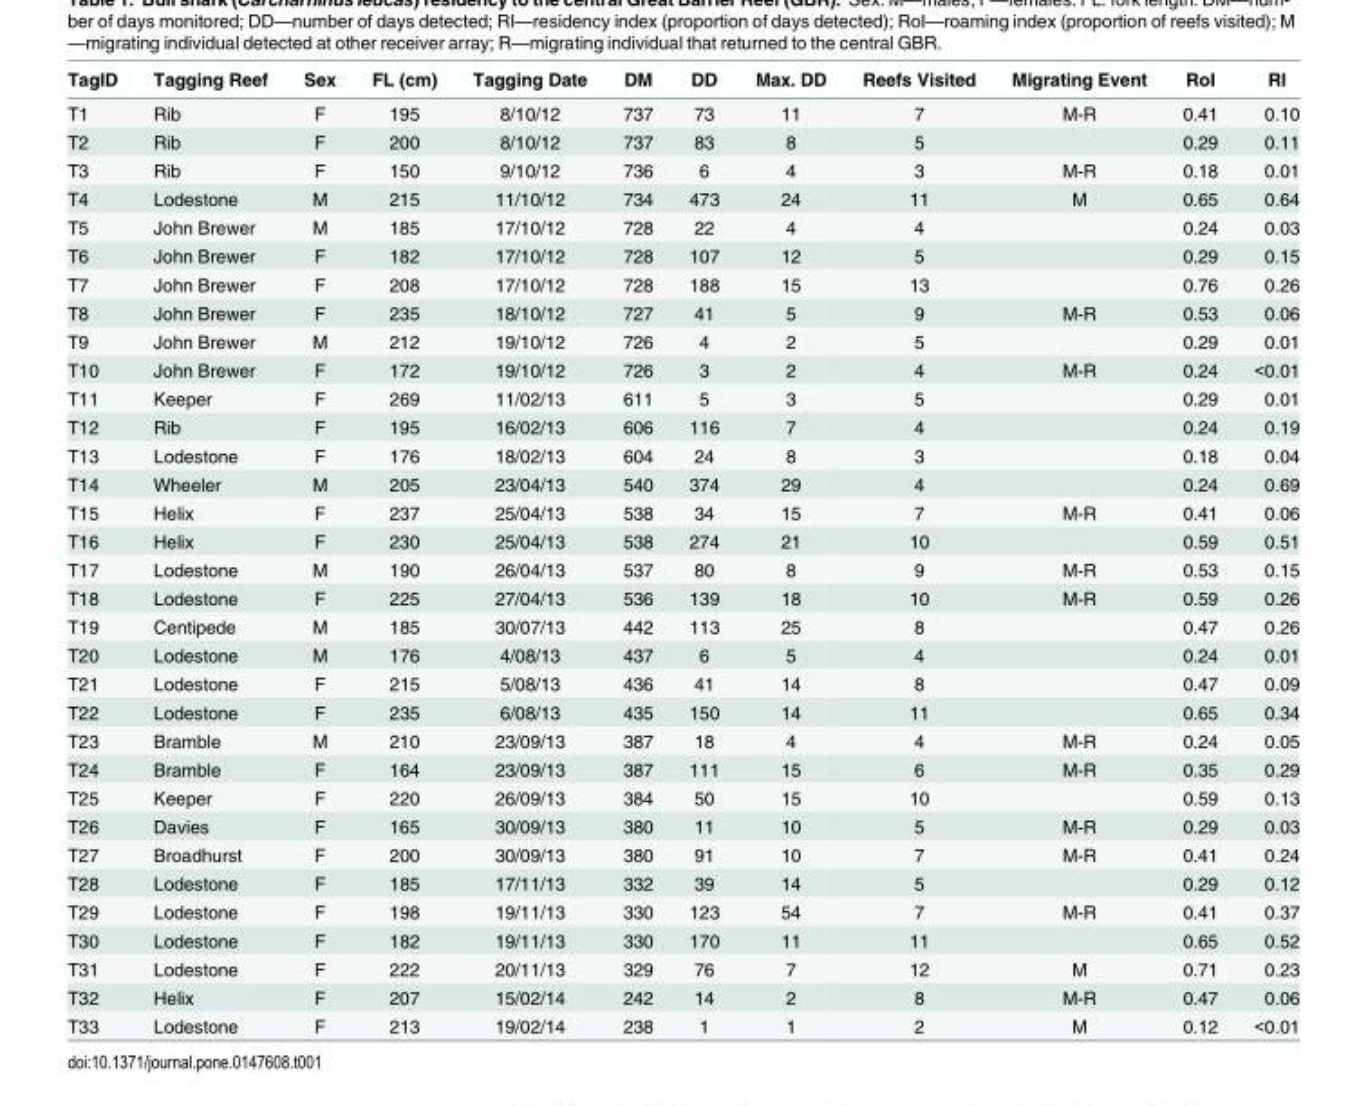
<table><thead><tr><td>TagID</td><td>Tagging Reef</td><td>Sex</td><td>FL (cm)</td><td>Tagging Date</td><td>DM</td><td>DD</td><td>Max. DD</td><td>Reefs Visited</td><td>Migrating Event</td><td>RoI</td><td>RI</td></tr></thead><tbody><tr><td>T1</td><td>Rib</td><td>F</td><td>195</td><td>8/10/12</td><td>737</td><td>73</td><td>11</td><td>7</td><td>M-R</td><td>0.41</td><td>0.10</td></tr><tr><td>T2</td><td>Rib</td><td>F</td><td>200</td><td>8/10/12</td><td>737</td><td>83</td><td>8</td><td>5</td><td></td><td>0.29</td><td>0.11</td></tr><tr><td>T3</td><td>Rib</td><td>F</td><td>150</td><td>9/10/12</td><td>736</td><td>6</td><td>4</td><td>3</td><td>M-R</td><td>0.18</td><td>0.01</td></tr><tr><td>T4</td><td>Lodestone</td><td>M</td><td>215</td><td>11/10/12</td><td>734</td><td>473</td><td>24</td><td>11</td><td>M</td><td>0.65</td><td>0.64</td></tr><tr><td>T5</td><td>John Brewer</td><td>M</td><td>185</td><td>17/10/12</td><td>728</td><td>22</td><td>4</td><td>4</td><td></td><td>0.24</td><td>0.03</td></tr><tr><td>T6</td><td>John Brewer</td><td>F</td><td>182</td><td>17/10/12</td><td>728</td><td>107</td><td>12</td><td>5</td><td></td><td>0.29</td><td>0.15</td></tr><tr><td>T7</td><td>John Brewer</td><td>F</td><td>208</td><td>17/10/12</td><td>728</td><td>188</td><td>15</td><td>13</td><td></td><td>0.76</td><td>0.26</td></tr><tr><td>T8</td><td>John Brewer</td><td>F</td><td>235</td><td>18/10/12</td><td>727</td><td>41</td><td>5</td><td>9</td><td>M-R</td><td>0.53</td><td>0.06</td></tr><tr><td>T9</td><td>John Brewer</td><td>M</td><td>212</td><td>19/10/12</td><td>726</td><td>4</td><td>2</td><td>5</td><td></td><td>0.29</td><td>0.01</td></tr><tr><td>T10</td><td>John Brewer</td><td>F</td><td>172</td><td>19/10/12</td><td>726</td><td>3</td><td>2</td><td>4</td><td>M-R</td><td>0.24</td><td>&lt;0.01</td></tr><tr><td>T11</td><td>Keeper</td><td>F</td><td>269</td><td>11/02/13</td><td>611</td><td>5</td><td>3</td><td>5</td><td></td><td>0.29</td><td>0.01</td></tr><tr><td>T12</td><td>Rib</td><td>F</td><td>195</td><td>16/02/13</td><td>606</td><td>116</td><td>7</td><td>4</td><td></td><td>0.24</td><td>0.19</td></tr><tr><td>T13</td><td>Lodestone</td><td>F</td><td>176</td><td>18/02/13</td><td>604</td><td>24</td><td>8</td><td>3</td><td></td><td>0.18</td><td>0.04</td></tr><tr><td>T14</td><td>Wheeler</td><td>M</td><td>205</td><td>23/04/13</td><td>540</td><td>374</td><td>29</td><td>4</td><td></td><td>0.24</td><td>0.69</td></tr><tr><td>T15</td><td>Helix</td><td>F</td><td>237</td><td>25/04/13</td><td>538</td><td>34</td><td>15</td><td>7</td><td>M-R</td><td>0.41</td><td>0.06</td></tr><tr><td>T16</td><td>Helix</td><td>F</td><td>230</td><td>25/04/13</td><td>538</td><td>274</td><td>21</td><td>10</td><td></td><td>0.59</td><td>0.51</td></tr><tr><td>T17</td><td>Lodestone</td><td>M</td><td>190</td><td>26/04/13</td><td>537</td><td>80</td><td>8</td><td>9</td><td>M-R</td><td>0.53</td><td>0.15</td></tr><tr><td>T18</td><td>Lodestone</td><td>F</td><td>225</td><td>27/04/13</td><td>536</td><td>139</td><td>18</td><td>10</td><td>M-R</td><td>0.59</td><td>0.26</td></tr><tr><td>T19</td><td>Centipede</td><td>M</td><td>185</td><td>30/07/13</td><td>442</td><td>113</td><td>25</td><td>8</td><td></td><td>0.47</td><td>0.26</td></tr><tr><td>T20</td><td>Lodestone</td><td>M</td><td>176</td><td>4/08/13</td><td>437</td><td>6</td><td>5</td><td>4</td><td></td><td>0.24</td><td>0.01</td></tr><tr><td>T21</td><td>Lodestone</td><td>F</td><td>215</td><td>5/08/13</td><td>436</td><td>41</td><td>14</td><td>8</td><td></td><td>0.47</td><td>0.09</td></tr><tr><td>T22</td><td>Lodestone</td><td>F</td><td>235</td><td>6/08/13</td><td>435</td><td>150</td><td>14</td><td>11</td><td></td><td>0.65</td><td>0.34</td></tr><tr><td>T23</td><td>Bramble</td><td>M</td><td>210</td><td>23/09/13</td><td>387</td><td>18</td><td>4</td><td>4</td><td>M-R</td><td>0.24</td><td>0.05</td></tr><tr><td>T24</td><td>Bramble</td><td>F</td><td>164</td><td>23/09/13</td><td>387</td><td>111</td><td>15</td><td>6</td><td>M-R</td><td>0.35</td><td>0.29</td></tr><tr><td>T25</td><td>Keeper</td><td>F</td><td>220</td><td>26/09/13</td><td>384</td><td>50</td><td>15</td><td>10</td><td></td><td>0.59</td><td>0.13</td></tr><tr><td>T26</td><td>Davies</td><td>F</td><td>165</td><td>30/09/13</td><td>380</td><td>11</td><td>10</td><td>5</td><td>M-R</td><td>0.29</td><td>0.03</td></tr><tr><td>T27</td><td>Broadhurst</td><td>F</td><td>200</td><td>30/09/13</td><td>380</td><td>91</td><td>10</td><td>7</td><td>M-R</td><td>0.41</td><td>0.24</td></tr><tr><td>T28</td><td>Lodestone</td><td>F</td><td>185</td><td>17/11/13</td><td>332</td><td>39</td><td>14</td><td>5</td><td></td><td>0.29</td><td>0.12</td></tr><tr><td>T29</td><td>Lodestone</td><td>F</td><td>198</td><td>19/11/13</td><td>330</td><td>123</td><td>54</td><td>7</td><td>M-R</td><td>0.41</td><td>0.37</td></tr><tr><td>T30</td><td>Lodestone</td><td>F</td><td>182</td><td>19/11/13</td><td>330</td><td>170</td><td>11</td><td>11</td><td></td><td>0.65</td><td>0.52</td></tr><tr><td>T31</td><td>Lodestone</td><td>F</td><td>222</td><td>20/11/13</td><td>329</td><td>76</td><td>7</td><td>12</td><td>M</td><td>0.71</td><td>0.23</td></tr><tr><td>T32</td><td>Helix</td><td>F</td><td>207</td><td>15/02/14</td><td>242</td><td>14</td><td>2</td><td>8</td><td>M-R</td><td>0.47</td><td>0.06</td></tr><tr><td>T33</td><td>Lodestone</td><td>F</td><td>213</td><td>19/02/14</td><td>238</td><td>1</td><td>1</td><td>2</td><td>M</td><td>0.12</td><td>&lt;0.01</td></tr></tbody></table>